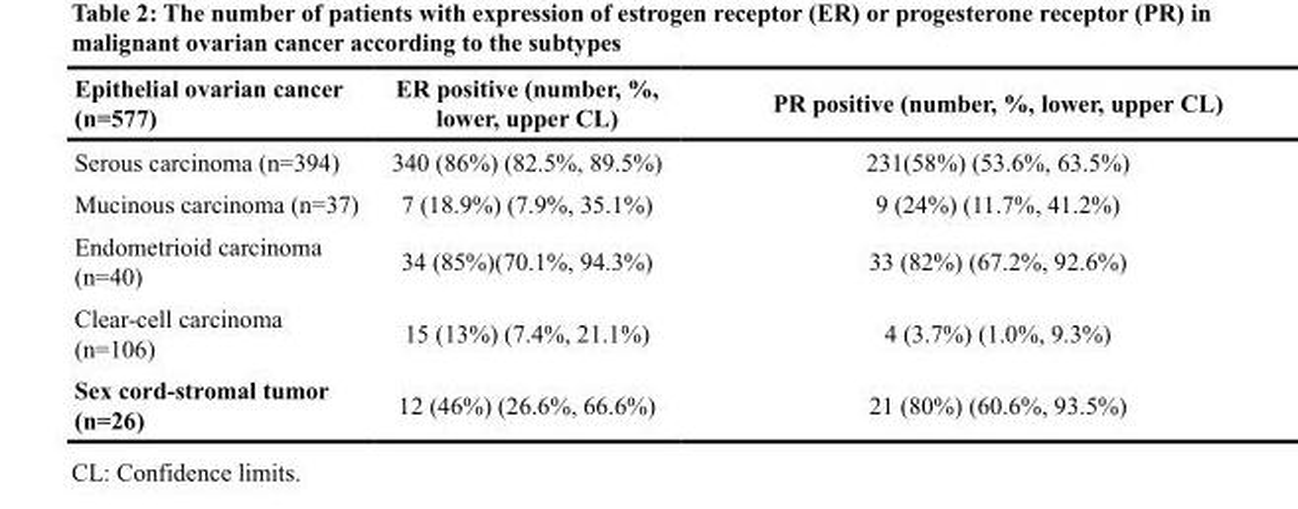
<table><thead><tr><td>Epithelial ovarian cancer (n=577)</td><td>ER positive (number, %, lower, upper CL)</td><td>PR positive (number, %, lower, upper CL)</td></tr></thead><tbody><tr><td>Serous carcinoma (n=394)</td><td>340 (86%) (82.5%, 89.5%)</td><td>231(58%) (53.6%, 63.5%)</td></tr><tr><td>Mucinous carcinoma (n=37)</td><td>7 (18.9%) (7.9%, 35.1%)</td><td>9 (24%) (11.7%, 41.2%)</td></tr><tr><td>Endometrioid carcinoma (n=40)</td><td>34 (85%)(70.1%, 94.3%)</td><td>33 (82%) (67.2%, 92.6%)</td></tr><tr><td>Clear-cell carcinoma (n=106)</td><td>15 (13%) (7.4%, 21.1%)</td><td>4 (3.7%) (1.0%, 9.3%)</td></tr><tr><td>Sex cord-stromal tumor (n=26)</td><td>12 (46%) (26.6%, 66.6%)</td><td>21 (80%) (60.6%, 93.5%)</td></tr></tbody></table>